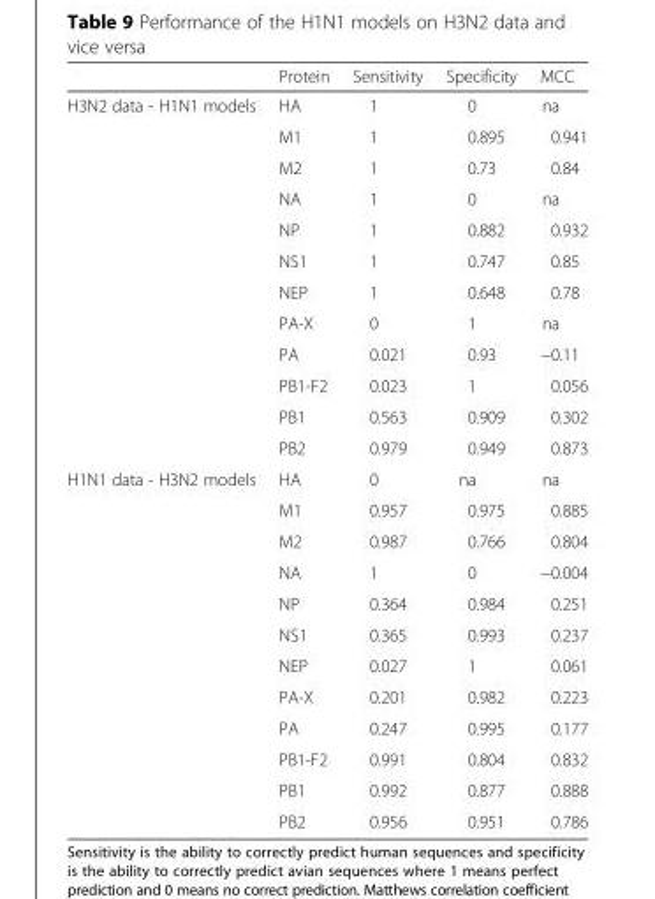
<table><thead><tr><td></td><td>Protein</td><td>Sensitivity</td><td>Specificity</td><td>MCC</td></tr></thead><tbody><tr><td rowspan="12">H3N2 data - H1N1 models</td><td>HA</td><td>1</td><td>0</td><td>na</td></tr><tr><td>M1</td><td>1</td><td>0.895</td><td>0.941</td></tr><tr><td>M2</td><td>1</td><td>0.73</td><td>0.84</td></tr><tr><td>NA</td><td>1</td><td>0</td><td>na</td></tr><tr><td>NP</td><td>1</td><td>0.882</td><td>0.932</td></tr><tr><td>NS1</td><td>1</td><td>0.747</td><td>0.85</td></tr><tr><td>NEP</td><td>1</td><td>0.648</td><td>0.78</td></tr><tr><td>PA-X</td><td>0</td><td>1</td><td>na</td></tr><tr><td>PA</td><td>0.021</td><td>0.93</td><td>−0.11</td></tr><tr><td>PB1-F2</td><td>0.023</td><td>1</td><td>0.056</td></tr><tr><td>PB1</td><td>0.563</td><td>0.909</td><td>0.302</td></tr><tr><td>PB2</td><td>0.979</td><td>0.949</td><td>0.873</td></tr><tr><td rowspan="12">H1N1 data - H3N2 models</td><td>HA</td><td>0</td><td>na</td><td>na</td></tr><tr><td>M1</td><td>0.957</td><td>0.975</td><td>0.885</td></tr><tr><td>M2</td><td>0.987</td><td>0.766</td><td>0.804</td></tr><tr><td>NA</td><td>1</td><td>0</td><td>−0.004</td></tr><tr><td>NP</td><td>0.364</td><td>0.984</td><td>0.251</td></tr><tr><td>NS1</td><td>0.365</td><td>0.993</td><td>0.237</td></tr><tr><td>NEP</td><td>0.027</td><td>1</td><td>0.061</td></tr><tr><td>PA-X</td><td>0.201</td><td>0.982</td><td>0.223</td></tr><tr><td>PA</td><td>0.247</td><td>0.995</td><td>0.177</td></tr><tr><td>PB1-F2</td><td>0.991</td><td>0.804</td><td>0.832</td></tr><tr><td>PB1</td><td>0.992</td><td>0.877</td><td>0.888</td></tr><tr><td>PB2</td><td>0.956</td><td>0.951</td><td>0.786</td></tr></tbody></table>